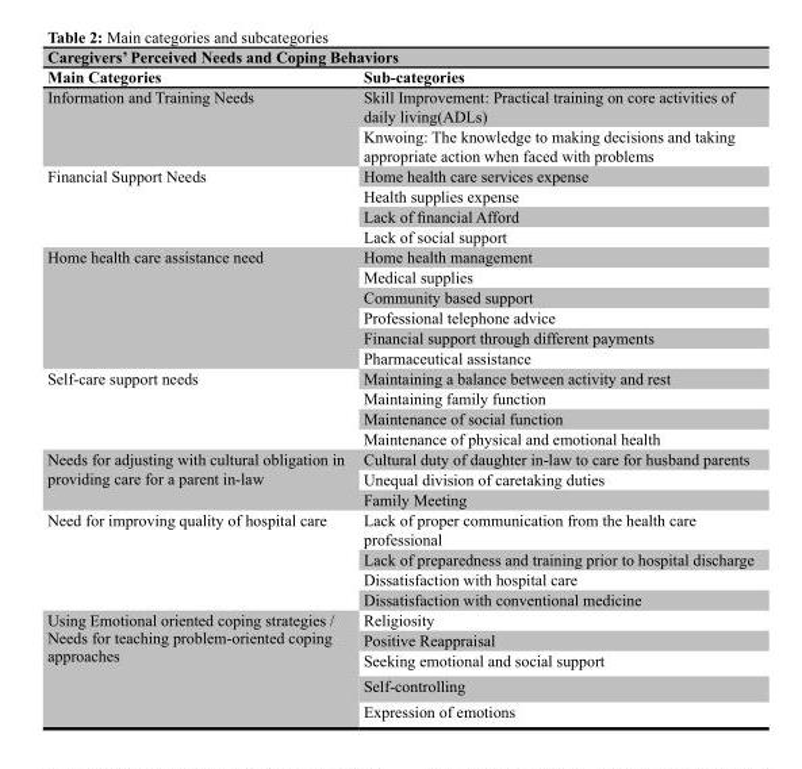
<table><thead><tr><td colspan="2">Caregivers’ Perceived Needs and Coping Behaviors</td></tr><tr><td>Main Categories</td><td>Sub-categories</td></tr></thead><tbody><tr><td rowspan="2">Information and Training Needs</td><td>Skill Improvement: Practical training on core activities of daily living(ADLs)</td></tr><tr><td>Knwoing: The knowledge to making decisions and taking appropriate action when faced with problems</td></tr><tr><td rowspan="4">Financial Support Needs</td><td>Home health care services expense</td></tr><tr><td>Health supplies expense</td></tr><tr><td>Lack of financial Afford</td></tr><tr><td>Lack of social support</td></tr><tr><td rowspan="6">Home health care assistance need</td><td>Home health management</td></tr><tr><td>Medical supplies</td></tr><tr><td>Community based support</td></tr><tr><td>Professional telephone advice</td></tr><tr><td>Financial support through different payments</td></tr><tr><td>Pharmaceutical assistance</td></tr><tr><td rowspan="4">Self-care support needs</td><td>Maintaining a balance between activity and rest</td></tr><tr><td>Maintaining family function</td></tr><tr><td>Maintenance of social function</td></tr><tr><td>Maintenance of physical and emotional health</td></tr><tr><td rowspan="3">Needs for adjusting with cultural obligation in providing care for a parent in-law</td><td>Cultural duty of daughter in-law to care for husband parents</td></tr><tr><td>Unequal division of caretaking duties</td></tr><tr><td>Family Meeting</td></tr><tr><td rowspan="4">Need for improving quality of hospital care</td><td>Lack of proper communication from the health care professional</td></tr><tr><td>Lack of preparedness and training prior to hospital discharge</td></tr><tr><td>Dissatisfaction with hospital care</td></tr><tr><td>Dissatisfaction with conventional medicine</td></tr><tr><td rowspan="5">Using Emotional oriented coping strategies / Needs for teaching problem-oriented coping approaches</td><td>Religiosity</td></tr><tr><td>Positive Reappraisal</td></tr><tr><td>Seeking emotional and social support</td></tr><tr><td>Self-controlling</td></tr><tr><td>Expression of emotions</td></tr></tbody></table>